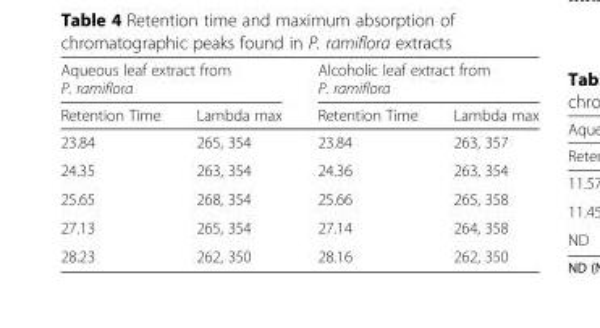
<table><thead><tr><td colspan="2">Aqueous leaf extract from P. ramiflora</td><td colspan="2">Alcoholic leaf extract from P. ramiflora</td></tr><tr><td>Retention Time</td><td>Lambda max</td><td>Retention Time</td><td>Lambda max</td></tr></thead><tbody><tr><td>23.84</td><td>265, 354</td><td>23.84</td><td>263, 357</td></tr><tr><td>24.35</td><td>263, 354</td><td>24.36</td><td>263, 354</td></tr><tr><td>25.65</td><td>268, 354</td><td>25.66</td><td>265, 358</td></tr><tr><td>27.13</td><td>265, 354</td><td>27.14</td><td>264, 358</td></tr><tr><td>28.23</td><td>262, 350</td><td>28.16</td><td>262, 350</td></tr></tbody></table>